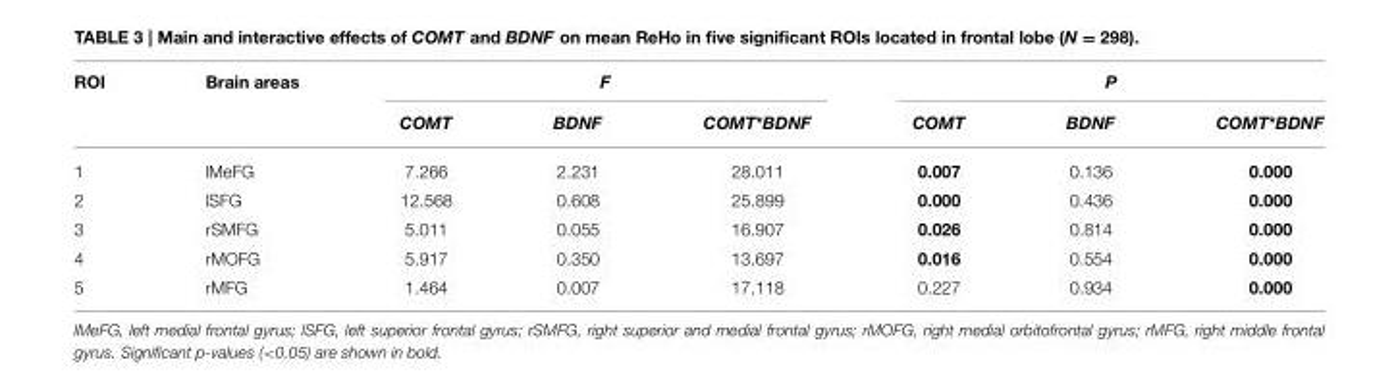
<table><thead><tr><td rowspan="2">ROI</td><td rowspan="2">Brain areas</td><td colspan="3">F</td><td colspan="3">P</td></tr><tr><td>COMT</td><td>BDNF</td><td>COMT*BDNF</td><td>COMT</td><td>BDNF</td><td>COMT*BDNF</td></tr></thead><tbody><tr><td>1</td><td>lMeFG</td><td>7.266</td><td>2.231</td><td>28.011</td><td>0.007</td><td>0.136</td><td>0.000</td></tr><tr><td>2</td><td>lSFG</td><td>12.568</td><td>0.608</td><td>25.899</td><td>0.000</td><td>0.436</td><td>0.000</td></tr><tr><td>3</td><td>rSMFG</td><td>5.011</td><td>0.055</td><td>16.907</td><td>0.026</td><td>0.814</td><td>0.000</td></tr><tr><td>4</td><td>rMOFG</td><td>5.917</td><td>0.350</td><td>13.697</td><td>0.016</td><td>0.554</td><td>0.000</td></tr><tr><td>5</td><td>rMFG</td><td>1.464</td><td>0.007</td><td>17.118</td><td>0.227</td><td>0.934</td><td>0.000</td></tr></tbody></table>